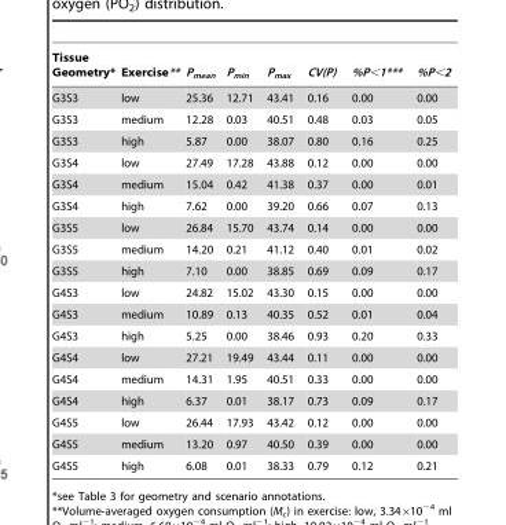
<table><thead><tr><td>Tissue Geometry*</td><td>Exercise**</td><td>P<sub>mean</sub></td><td>P<sub>min</sub></td><td>P<sub>max</sub></td><td>CV(P)</td><td>%P&lt;1***</td><td>%P&lt;2</td></tr></thead><tbody><tr><td>G3S3</td><td>low</td><td>25.36</td><td>12.71</td><td>43.41</td><td>0.16</td><td>0.00</td><td>0.00</td></tr><tr><td>G3S3</td><td>medium</td><td>12.28</td><td>0.03</td><td>40.51</td><td>0.48</td><td>0.03</td><td>0.05</td></tr><tr><td>G3S3</td><td>high</td><td>5.87</td><td>0.00</td><td>38.07</td><td>0.80</td><td>0.16</td><td>0.25</td></tr><tr><td>G3S4</td><td>low</td><td>27.49</td><td>17.28</td><td>43.88</td><td>0.12</td><td>0.00</td><td>0.00</td></tr><tr><td>G3S4</td><td>medium</td><td>15.04</td><td>0.42</td><td>41.38</td><td>0.37</td><td>0.00</td><td>0.01</td></tr><tr><td>G3S4</td><td>high</td><td>7.62</td><td>0.00</td><td>39.20</td><td>0.66</td><td>0.07</td><td>0.13</td></tr><tr><td>G3S5</td><td>low</td><td>26.84</td><td>15.70</td><td>43.74</td><td>0.14</td><td>0.00</td><td>0.00</td></tr><tr><td>G3S5</td><td>medium</td><td>14.20</td><td>0.21</td><td>41.12</td><td>0.40</td><td>0.01</td><td>0.02</td></tr><tr><td>G3S5</td><td>high</td><td>7.10</td><td>0.00</td><td>38.85</td><td>0.69</td><td>0.09</td><td>0.17</td></tr><tr><td>G4S3</td><td>low</td><td>24.82</td><td>15.02</td><td>43.30</td><td>0.15</td><td>0.00</td><td>0.00</td></tr><tr><td>G4S3</td><td>medium</td><td>10.89</td><td>0.13</td><td>40.35</td><td>0.52</td><td>0.01</td><td>0.04</td></tr><tr><td>G4S3</td><td>high</td><td>5.25</td><td>0.00</td><td>38.46</td><td>0.93</td><td>0.20</td><td>0.33</td></tr><tr><td>G4S4</td><td>low</td><td>27.21</td><td>19.49</td><td>43.44</td><td>0.11</td><td>0.00</td><td>0.00</td></tr><tr><td>G4S4</td><td>medium</td><td>14.31</td><td>1.95</td><td>40.51</td><td>0.33</td><td>0.00</td><td>0.00</td></tr><tr><td>G4S4</td><td>high</td><td>6.37</td><td>0.01</td><td>38.17</td><td>0.73</td><td>0.09</td><td>0.17</td></tr><tr><td>G4S5</td><td>low</td><td>26.44</td><td>17.93</td><td>43.42</td><td>0.12</td><td>0.00</td><td>0.00</td></tr><tr><td>G4S5</td><td>medium</td><td>13.20</td><td>0.97</td><td>40.50</td><td>0.39</td><td>0.00</td><td>0.00</td></tr><tr><td>G4S5</td><td>high</td><td>6.08</td><td>0.01</td><td>38.33</td><td>0.79</td><td>0.12</td><td>0.21</td></tr></tbody></table>